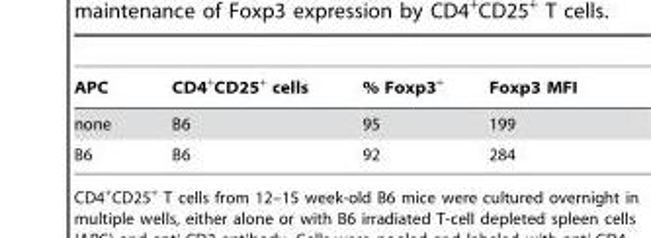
<table><thead><tr><td>APC</td><td>CD4<sup>+</sup>CD25<sup>+</sup> cells</td><td>% Foxp3<sup>+</sup></td><td>Foxp3 MFI</td></tr></thead><tbody><tr><td>none</td><td>B6</td><td>95</td><td>199</td></tr><tr><td>B6</td><td>B6</td><td>92</td><td>284</td></tr></tbody></table>